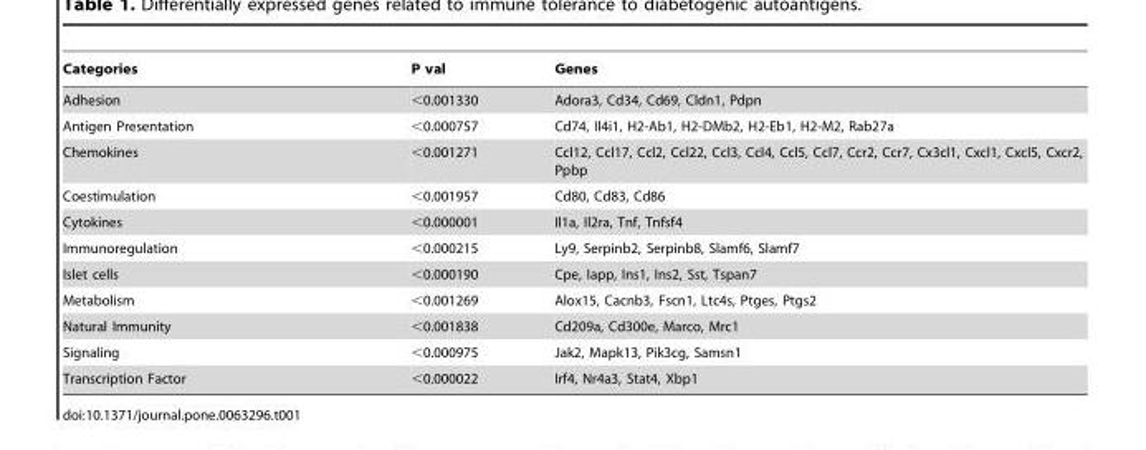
<table><thead><tr><td>Categories</td><td>P val</td><td>Genes</td></tr></thead><tbody><tr><td>Adhesion</td><td>&lt;0.001330</td><td>Adora3, Cd34, Cd69, Cldn1, Pdpn</td></tr><tr><td>Antigen Presentation</td><td>&lt;0.000757</td><td>Cd74, Il4i1, H2-Ab1, H2-DMb2, H2-Eb1, H2-M2, Rab27a</td></tr><tr><td>Chemokines</td><td>&lt;0.001271</td><td>Ccl12, Ccl17, Ccl2, Ccl22, Ccl3, Ccl4, Ccl5, Ccl7, Ccr2, Ccr7, Cx3cl1, Cxcl1, Cxcl5, Cxcr2, Ppbp</td></tr><tr><td>Coestimulation</td><td>&lt;0.001957</td><td>Cd80, Cd83, Cd86</td></tr><tr><td>Cytokines</td><td>&lt;0.000001</td><td>Il1a, Il2ra, Tnf, Tnfsf4</td></tr><tr><td>Immunoregulation</td><td>&lt;0.000215</td><td>Ly9, Serpinb2, Serpinb8, Slamf6, Slamf7</td></tr><tr><td>Islet cells</td><td>&lt;0.000190</td><td>Cpe, Iapp, Ins1, Ins2, Sst, Tspan7</td></tr><tr><td>Metabolism</td><td>&lt;0.001269</td><td>Alox15, Cacnb3, Fscn1, Ltc4s, Ptges, Ptgs2</td></tr><tr><td>Natural Immunity</td><td>&lt;0.001838</td><td>Cd209a, Cd300e, Marco, Mrc1</td></tr><tr><td>Signaling</td><td>&lt;0.000975</td><td>Jak2, Mapk13, Pik3cg, Samsn1</td></tr><tr><td>Transcription Factor</td><td>&lt;0.000022</td><td>Irf4, Nr4a3, Stat4, Xbp1</td></tr></tbody></table>